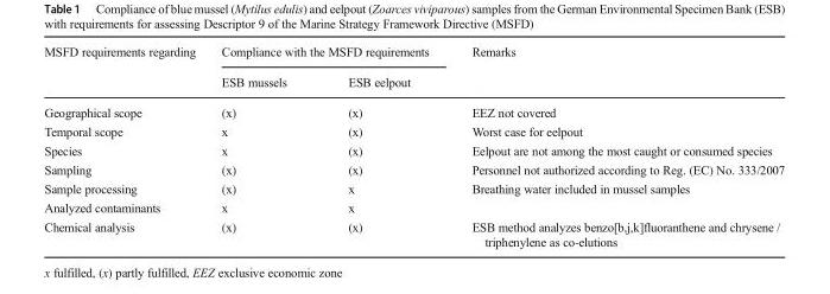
<table><thead><tr><td rowspan="2">MSFD requirements regarding</td><td colspan="2">Compliance with the MSFD requirements</td><td rowspan="2">Remarks</td></tr><tr><td>ESB mussels</td><td>ESB eelpout</td></tr></thead><tbody><tr><td>Geographical scope</td><td>(x)</td><td>(x)</td><td>EEZ not covered</td></tr><tr><td>Temporal scope</td><td>x</td><td>(x)</td><td>Worst case for eelpout</td></tr><tr><td>Species</td><td>x</td><td>(x)</td><td>Eelpout are not among the most caught or consumed species</td></tr><tr><td>Sampling</td><td>(x)</td><td>(x)</td><td>Personnel not authorized according to Reg. (EC) No. 333/2007</td></tr><tr><td>Sample processing</td><td>(x)</td><td>x</td><td>Breathing water included in mussel samples</td></tr><tr><td>Analyzed contaminants</td><td>x</td><td>x</td><td></td></tr><tr><td>Chemical analysis</td><td>(x)</td><td>(x)</td><td>ESB method analyzes benzo[b,j,k]fluoranthene and chrysene / triphenylene as co-elutions</td></tr></tbody></table>